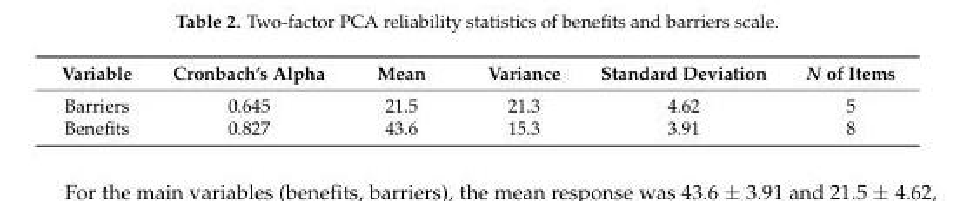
<table><thead><tr><td>Variable</td><td>Cronbach’s Alpha</td><td>Mean</td><td>Variance</td><td>Standard Deviation</td><td>N of Items</td></tr></thead><tbody><tr><td>Barriers</td><td>0.645</td><td>21.5</td><td>21.3</td><td>4.62</td><td>5</td></tr><tr><td>Benefits</td><td>0.827</td><td>43.6</td><td>15.3</td><td>3.91</td><td>8</td></tr></tbody></table>